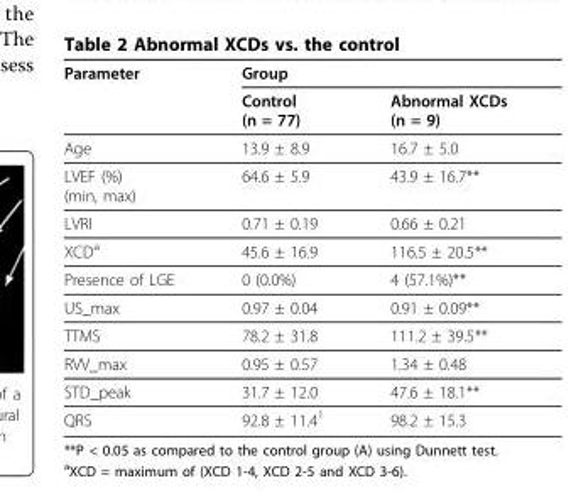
<table><thead><tr><td rowspan="2">Parameter</td><td colspan="2">Group</td></tr><tr><td>Control (n = 77)</td><td>Abnormal XCDs (n = 9)</td></tr></thead><tbody><tr><td>Age</td><td>13.9 ± 8.9</td><td>16.7 ± 5.0</td></tr><tr><td>LVEF (%) (min, max)</td><td>64.6 ± 5.9</td><td>43.9 ± 16.7**</td></tr><tr><td>LVRI</td><td>0.71 ± 0.19</td><td>0.66 ± 0.21</td></tr><tr><td>XCD<sup>a</sup></td><td>45.6 ± 16.9</td><td>116.5 ± 20.5**</td></tr><tr><td>Presence of LGE</td><td>0 (0.0%)</td><td>4 (57.1%)**</td></tr><tr><td>US_max</td><td>0.97 ± 0.04</td><td>0.91 ± 0.09**</td></tr><tr><td>TTMS</td><td>78.2 ± 31.8</td><td>111.2 ± 39.5**</td></tr><tr><td>RVV_max</td><td>0.95 ± 0.57</td><td>1.34 ± 0.48</td></tr><tr><td>STD_peak</td><td>31.7 ± 12.0</td><td>47.6 ± 18.1**</td></tr><tr><td>QRS</td><td>92.8 ± 11.4<sup>1</sup></td><td>98.2 ± 15.3</td></tr></tbody></table>